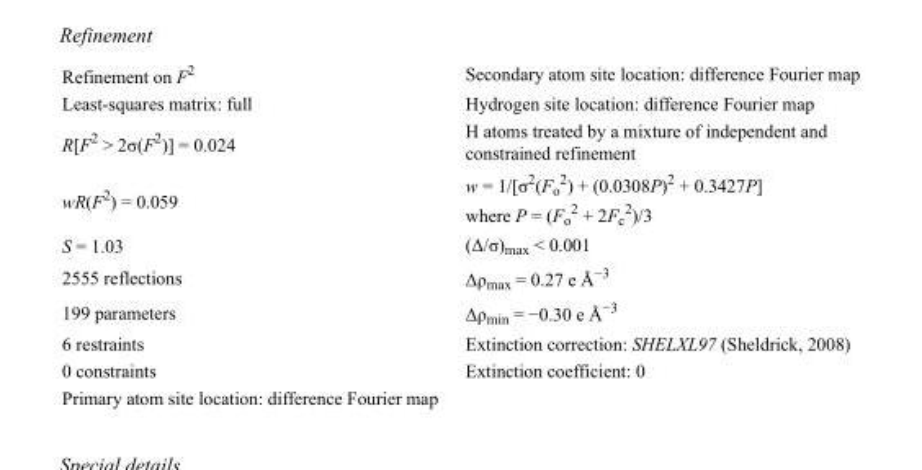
<table><tbody><tr><td>Refinement on F<sup>2</sup></td><td>Secondary atom site location: difference Fourier map</td></tr><tr><td>Least-squares matrix: full</td><td>Hydrogen site location: difference Fourier map</td></tr><tr><td>R[F<sup>2</sup> &gt; 2σ(F<sup>2</sup>)] = 0.024</td><td>H atoms treated by a mixture of independent and constrained refinement</td></tr><tr><td>wR(F<sup>2</sup>) = 0.059</td><td>w = 1/[σ<sup>2</sup>(F<sub>o</sub> <sup>2</sup>) + (0.0308P)<sup>2</sup> + 0.3427P] where P = (F<sub>o</sub> <sup>2</sup> + 2F<sub>c</sub> <sup>2</sup>)/3</td></tr><tr><td>S = 1.03</td><td>(Δ/σ)<sub>max</sub> &lt; 0.001</td></tr><tr><td>2555 reflections</td><td>Δρ<sub>max</sub> = 0.27 e Å<sup>−3</sup></td></tr><tr><td>199 parameters</td><td>Δρ<sub>min</sub> = −0.30 e Å<sup>−3</sup></td></tr><tr><td>6 restraints</td><td>Extinction correction: SHELXL97 (Sheldrick, 2008)</td></tr><tr><td>0 constraints</td><td>Extinction coefficient: 0</td></tr><tr><td>Primary atom site location: difference Fourier map</td><td></td></tr></tbody></table>